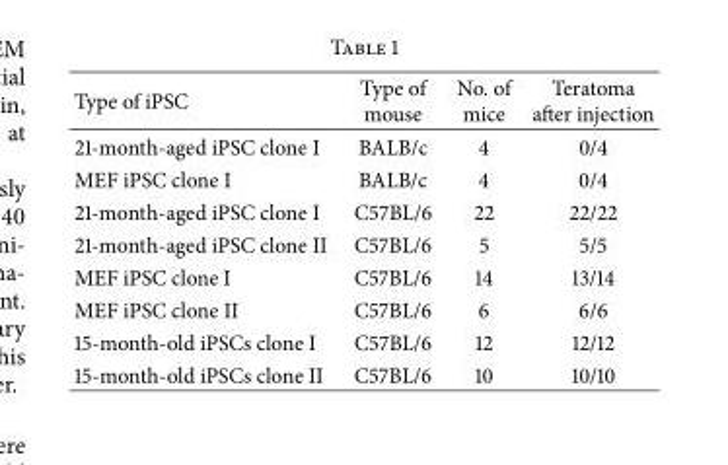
<table><thead><tr><td>Type of iPSC</td><td>Type of mouse</td><td>No. of mice</td><td>Teratoma after injection</td></tr></thead><tbody><tr><td>21-month-aged iPSC clone I</td><td>BALB/c</td><td>4</td><td>0/4</td></tr><tr><td>MEF iPSC clone I</td><td>BALB/c</td><td>4</td><td>0/4</td></tr><tr><td>21-month-aged iPSC clone I</td><td>C57BL/6</td><td>22</td><td>22/22</td></tr><tr><td>21-month-aged iPSC clone II</td><td>C57BL/6</td><td>5</td><td>5/5</td></tr><tr><td>MEF iPSC clone I</td><td>C57BL/6</td><td>14</td><td>13/14</td></tr><tr><td>MEF iPSC clone II</td><td>C57BL/6</td><td>6</td><td>6/6</td></tr><tr><td>15-month-old iPSCs clone I</td><td>C57BL/6</td><td>12</td><td>12/12</td></tr><tr><td>15-month-old iPSCs clone II</td><td>C57BL/6</td><td>10</td><td>10/10</td></tr></tbody></table>